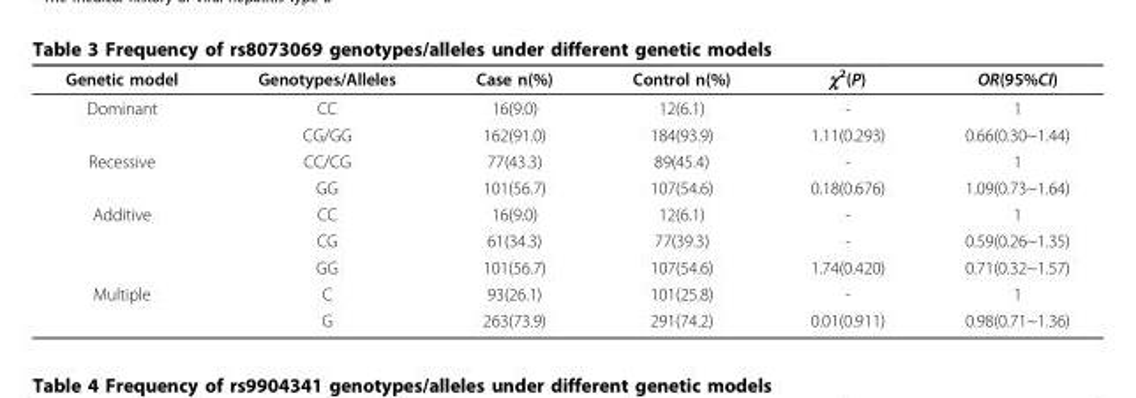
<table><thead><tr><td>Genetic model</td><td>Genotypes/Alleles</td><td>Case n(%)</td><td>Control n(%)</td><td>χ<sup>2</sup>(P)</td><td>OR(95%CI)</td></tr></thead><tbody><tr><td rowspan="2">Dominant</td><td>CC</td><td>16(9.0)</td><td>12(6.1)</td><td>-</td><td>1</td></tr><tr><td>CG/GG</td><td>162(91.0)</td><td>184(93.9)</td><td>1.11(0.293)</td><td>0.66(0.30~1.44)</td></tr><tr><td rowspan="2">Recessive</td><td>CC/CG</td><td>77(43.3)</td><td>89(45.4)</td><td>-</td><td>1</td></tr><tr><td>GG</td><td>101(56.7)</td><td>107(54.6)</td><td>0.18(0.676)</td><td>1.09(0.73~1.64)</td></tr><tr><td rowspan="3">Additive</td><td>CC</td><td>16(9.0)</td><td>12(6.1)</td><td>-</td><td>1</td></tr><tr><td>CG</td><td>61(34.3)</td><td>77(39.3)</td><td>-</td><td>0.59(0.26~1.35)</td></tr><tr><td>GG</td><td>101(56.7)</td><td>107(54.6)</td><td>1.74(0.420)</td><td>0.71(0.32~1.57)</td></tr><tr><td rowspan="2">Multiple</td><td>C</td><td>93(26.1)</td><td>101(25.8)</td><td>-</td><td>1</td></tr><tr><td>G</td><td>263(73.9)</td><td>291(74.2)</td><td>0.01(0.911)</td><td>0.98(0.71~1.36)</td></tr></tbody></table>